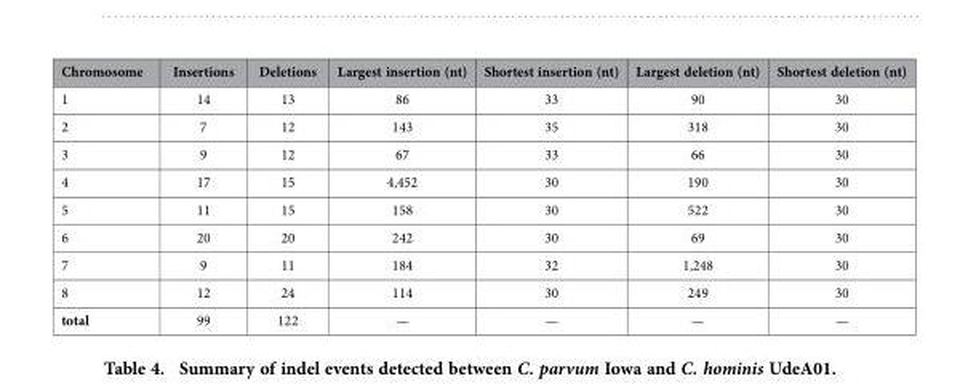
<table><thead><tr><td>Chromosome</td><td>Insertions</td><td>Deletions</td><td>Largest insertion (nt)</td><td>Shortest insertion (nt)</td><td>Largest deletion (nt)</td><td>Shortest deletion (nt)</td></tr></thead><tbody><tr><td>1</td><td>14</td><td>13</td><td>86</td><td>33</td><td>90</td><td>30</td></tr><tr><td>2</td><td>7</td><td>12</td><td>143</td><td>35</td><td>318</td><td>30</td></tr><tr><td>3</td><td>9</td><td>12</td><td>67</td><td>33</td><td>66</td><td>30</td></tr><tr><td>4</td><td>17</td><td>15</td><td>4,452</td><td>30</td><td>190</td><td>30</td></tr><tr><td>5</td><td>11</td><td>15</td><td>158</td><td>30</td><td>522</td><td>30</td></tr><tr><td>6</td><td>20</td><td>20</td><td>242</td><td>30</td><td>69</td><td>30</td></tr><tr><td>7</td><td>9</td><td>11</td><td>184</td><td>32</td><td>1,248</td><td>30</td></tr><tr><td>8</td><td>12</td><td>24</td><td>114</td><td>30</td><td>249</td><td>30</td></tr><tr><td>total</td><td>99</td><td>122</td><td>—</td><td>—</td><td>—</td><td>—</td></tr></tbody></table>